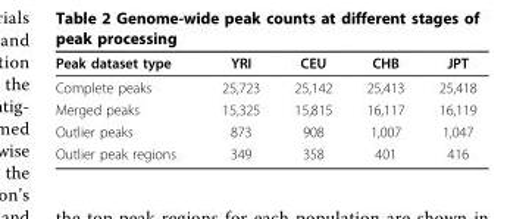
<table><thead><tr><td>Peak dataset type</td><td>YRI</td><td>CEU</td><td>CHB</td><td>JPT</td></tr></thead><tbody><tr><td>Complete peaks</td><td>25,723</td><td>25,142</td><td>25,413</td><td>25,418</td></tr><tr><td>Merged peaks</td><td>15,325</td><td>15,815</td><td>16,117</td><td>16,119</td></tr><tr><td>Outlier peaks</td><td>873</td><td>908</td><td>1,007</td><td>1,047</td></tr><tr><td>Outlier peak regions</td><td>349</td><td>358</td><td>401</td><td>416</td></tr></tbody></table>